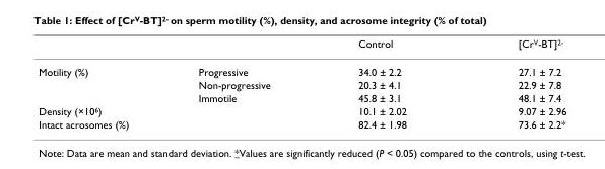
<table><thead><tr><td></td><td></td><td>Control</td><td>[Cr<sup>V</sup>-BT]<sup>2-</sup></td></tr></thead><tbody><tr><td rowspan="3">Motility (%)</td><td>Progressive</td><td>34.0 ± 2.2</td><td>27.1 ± 7.2</td></tr><tr><td>Non-progressive</td><td>20.3 ± 4.1</td><td>22.9 ± 7.8</td></tr><tr><td>Immotile</td><td>45.8 ± 3.1</td><td>48.1 ± 7.4</td></tr><tr><td colspan="2">Density (×10<sup>6</sup>)</td><td>10.1 ± 2.02</td><td>9.07 ± 2.96</td></tr><tr><td colspan="2">Intact acrosomes (%)</td><td>82.4 ± 1.98</td><td>73.6 ± 2.2*</td></tr></tbody></table>